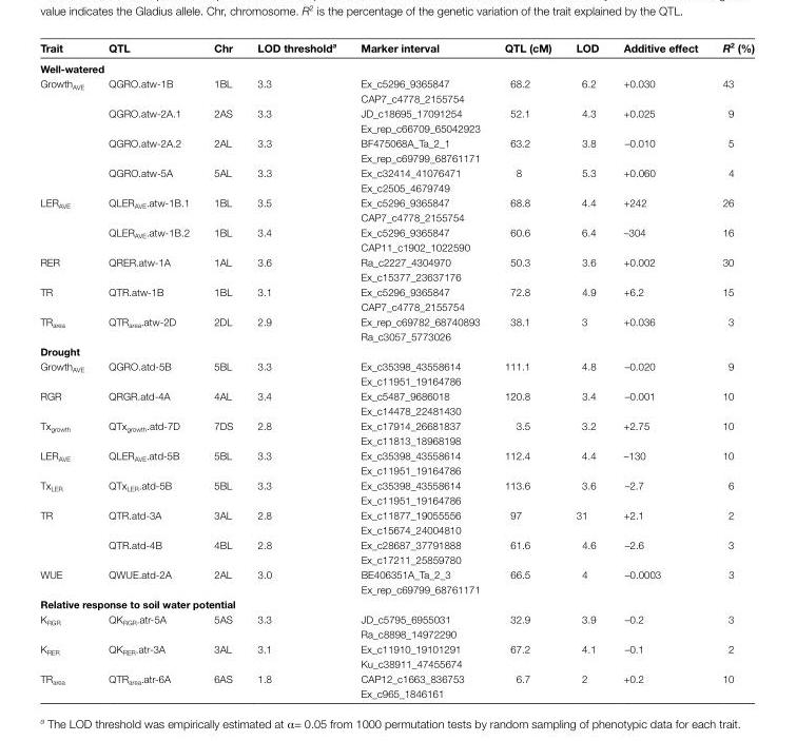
<table><thead><tr><td>Trait</td><td>QTL</td><td>Chr</td><td>LOD threshold<sup>a</sup></td><td>Marker interval</td><td>QTL (cM)</td><td>LOD</td><td>Additive effect</td><td>R<sup>2</sup> (%)</td></tr></thead><tbody><tr><td colspan="9">Well-watered</td></tr><tr><td rowspan="8">Growth<sub>AVE</sub></td><td>QGRO.atw-1B</td><td>1BL</td><td>3.3</td><td>Ex_c5296_9365847</td><td>68.2</td><td>6.2</td><td>+0.030</td><td>43</td></tr><tr><td></td><td></td><td></td><td>CAP7_c4778_2155754</td><td></td><td></td><td></td><td></td></tr><tr><td>QGRO.atw-2A.1</td><td>2AS</td><td>3.3</td><td>JD_c18695_17091254</td><td>52.1</td><td>4.3</td><td>+0.025</td><td>9</td></tr><tr><td></td><td></td><td></td><td>Ex_rep_c66709_65042923</td><td></td><td></td><td></td><td></td></tr><tr><td>QGRO.atw-2A.2</td><td>2AL</td><td>3.3</td><td>BF475068A_Ta_2_1</td><td>63.2</td><td>3.8</td><td>–0.010</td><td>5</td></tr><tr><td></td><td></td><td></td><td>Ex_rep_c69799_68761171</td><td></td><td></td><td></td><td></td></tr><tr><td>QGRO.atw-5A</td><td>5AL</td><td>3.3</td><td>Ex_c32414_41076471</td><td>8</td><td>5.3</td><td>+0.060</td><td>4</td></tr><tr><td></td><td></td><td></td><td>Ex_c2505_4679749</td><td></td><td></td><td></td><td></td></tr><tr><td rowspan="4">LER<sub>AVE</sub></td><td>QLER<sub>AVE</sub>.atw-1B.1</td><td>1BL</td><td>3.5</td><td>Ex_c5296_9365847</td><td>68.8</td><td>4.4</td><td>+242</td><td>26</td></tr><tr><td></td><td></td><td></td><td>CAP7_c4778_2155754</td><td></td><td></td><td></td><td></td></tr><tr><td>QLER<sub>AVE</sub>.atw-1B.2</td><td>1BL</td><td>3.4</td><td>Ex_c5296_9365847</td><td>60.6</td><td>6.4</td><td>–304</td><td>16</td></tr><tr><td></td><td></td><td></td><td>CAP11_c1902_1022590</td><td></td><td></td><td></td><td></td></tr><tr><td rowspan="2">RER</td><td>QRER.atw-1A</td><td>1AL</td><td>3.6</td><td>Ra_c2227_4304970</td><td>50.3</td><td>3.6</td><td>+0.002</td><td>30</td></tr><tr><td></td><td></td><td></td><td>Ex_c15377_23637176</td><td></td><td></td><td></td><td></td></tr><tr><td rowspan="2">TR</td><td>QTR.atw-1B</td><td>1BL</td><td>3.1</td><td>Ex_c5296_9365847</td><td>72.8</td><td>4.9</td><td>+6.2</td><td>15</td></tr><tr><td></td><td></td><td></td><td>CAP7_c4778_2155754</td><td></td><td></td><td></td><td></td></tr><tr><td rowspan="2">TR<sub>area</sub></td><td>QTR<sub>area</sub>.atw-2D</td><td>2DL</td><td>2.9</td><td>Ex_rep_c69782_68740893</td><td>38.1</td><td>3</td><td>+0.036</td><td>3</td></tr><tr><td></td><td></td><td></td><td>Ra_c3057_5773026</td><td></td><td></td><td></td><td></td></tr><tr><td colspan="9">Drought</td></tr><tr><td rowspan="2">Growth<sub>AVE</sub></td><td>QGRO.atd-5B</td><td>5BL</td><td>3.3</td><td>Ex_c35398_43558614</td><td>111.1</td><td>4.8</td><td>–0.020</td><td>9</td></tr><tr><td></td><td></td><td></td><td>Ex_c11951_19164786</td><td></td><td></td><td></td><td></td></tr><tr><td rowspan="2">RGR</td><td>QRGR.atd-4A</td><td>4AL</td><td>3.4</td><td>Ex_c5487_9686018</td><td>120.8</td><td>3.4</td><td>–0.001</td><td>10</td></tr><tr><td></td><td></td><td></td><td>Ex_c14478_22481430</td><td></td><td></td><td></td><td></td></tr><tr><td rowspan="2">Tx<sub>growth</sub></td><td>QTx<sub>growth</sub>.atd-7D</td><td>7DS</td><td>2.8</td><td>Ex_c17914_26681837</td><td>3.5</td><td>3.2</td><td>+2.75</td><td>10</td></tr><tr><td></td><td></td><td></td><td>Ex_c11813_18968198</td><td></td><td></td><td></td><td></td></tr><tr><td rowspan="2">LER<sub>AVE</sub></td><td>QLER<sub>AVE</sub>.atd-5B</td><td>5BL</td><td>3.3</td><td>Ex_c35398_43558614</td><td>112.4</td><td>4.4</td><td>–130</td><td>10</td></tr><tr><td></td><td></td><td></td><td>Ex_c11951_19164786</td><td></td><td></td><td></td><td></td></tr><tr><td rowspan="2">Tx<sub>LER</sub></td><td>QTx<sub>LER</sub>.atd-5B</td><td>5BL</td><td>3.3</td><td>Ex_c35398_43558614</td><td>113.6</td><td>3.6</td><td>–2.7</td><td>6</td></tr><tr><td></td><td></td><td></td><td>Ex_c11951_19164786</td><td></td><td></td><td></td><td></td></tr><tr><td rowspan="4">TR</td><td>QTR.atd-3A</td><td>3AL</td><td>2.8</td><td>Ex_c11877_19055556</td><td>97</td><td>31</td><td>+2.1</td><td>2</td></tr><tr><td></td><td></td><td></td><td>Ex_c15674_24004810</td><td></td><td></td><td></td><td></td></tr><tr><td>QTR.atd-4B</td><td>4BL</td><td>2.8</td><td>Ex_c28687_37791888</td><td>61.6</td><td>4.6</td><td>–2.6</td><td>3</td></tr><tr><td></td><td></td><td></td><td>Ex_c17211_25859780</td><td></td><td></td><td></td><td></td></tr><tr><td rowspan="2">WUE</td><td>QWUE.atd-2A</td><td>2AL</td><td>3.0</td><td>BE406351A_Ta_2_3</td><td>66.5</td><td>4</td><td>–0.0003</td><td>3</td></tr><tr><td></td><td></td><td></td><td>Ex_rep_c69799_68761171</td><td></td><td></td><td></td><td></td></tr><tr><td colspan="9">Relative response to soil water potential</td></tr><tr><td rowspan="2">K<sub>RGR</sub></td><td>QK<sub>RGR</sub>.atr-5A</td><td>5AS</td><td>3.3</td><td>JD_c5795_6955031</td><td>32.9</td><td>3.9</td><td>–0.2</td><td>3</td></tr><tr><td></td><td></td><td></td><td>Ra_c8898_14972290</td><td></td><td></td><td></td><td></td></tr><tr><td rowspan="2">K<sub>RER</sub></td><td>QK<sub>RER</sub>.atr-3A</td><td>3AL</td><td>3.1</td><td>Ex_c11910_19101291</td><td>67.2</td><td>4.1</td><td>–0.1</td><td>2</td></tr><tr><td></td><td></td><td></td><td>Ku_c38911_47455674</td><td></td><td></td><td></td><td></td></tr><tr><td rowspan="2">TR<sub>area</sub></td><td>QTR<sub>area</sub>.atr-6A</td><td>6AS</td><td>1.8</td><td>CAP12_c1663_836753</td><td>6.7</td><td>2</td><td>+0.2</td><td>10</td></tr><tr><td></td><td></td><td></td><td>Ex_c965_1846161</td><td></td><td></td><td></td><td></td></tr></tbody></table>